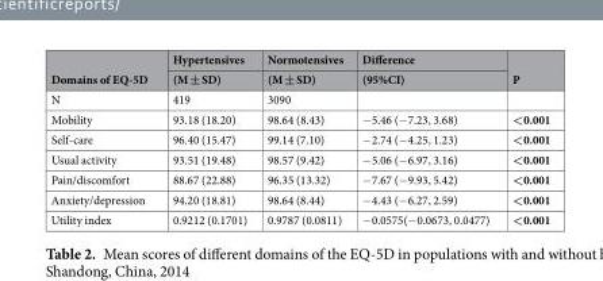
<table><thead><tr><td rowspan="2">Domains of EQ-5D</td><td rowspan="2">Hypertensives (M ± SD)</td><td rowspan="2">Normotensives (M ± SD)</td><td rowspan="2">Difference (95%CI)</td><td rowspan="2">P</td></tr><tr></tr></thead><tbody><tr><td>N</td><td>419</td><td>3090</td><td></td><td></td></tr><tr><td>Mobility</td><td>93.18 (18.20)</td><td>98.64 (8.43)</td><td>−5.46 (−7.23, 3.68)</td><td>&lt;0.001</td></tr><tr><td>Self-care</td><td>96.40 (15.47)</td><td>99.14 (7.10)</td><td>−2.74 (−4.25, 1.23)</td><td>&lt;0.001</td></tr><tr><td>Usual activity</td><td>93.51 (19.48)</td><td>98.57 (9.42)</td><td>−5.06 (−6.97, 3.16)</td><td>&lt;0.001</td></tr><tr><td>Pain/discomfort</td><td>88.67 (22.88)</td><td>96.35 (13.32)</td><td>−7.67 (−9.93, 5.42)</td><td>&lt;0.001</td></tr><tr><td>Anxiety/depression</td><td>94.20 (18.81)</td><td>98.64 (8.44)</td><td>−4.43 (−6.27, 2.59)</td><td>&lt;0.001</td></tr><tr><td>Utility index</td><td>0.9212 (0.1701)</td><td>0.9787 (0.0811)</td><td>−0.0575(−0.0673, 0.0477)</td><td>&lt;0.001</td></tr></tbody></table>